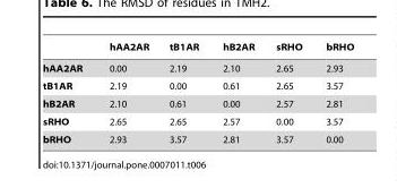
<table><thead><tr><td></td><td>hAA2AR</td><td>tB1AR</td><td>hB2AR</td><td>sRHO</td><td>bRHO</td></tr></thead><tbody><tr><td>hAA2AR</td><td>0.00</td><td>2.19</td><td>2.10</td><td>2.65</td><td>2.93</td></tr><tr><td>tB1AR</td><td>2.19</td><td>0.00</td><td>0.61</td><td>2.65</td><td>3.57</td></tr><tr><td>hB2AR</td><td>2.10</td><td>0.61</td><td>0.00</td><td>2.57</td><td>2.81</td></tr><tr><td>sRHO</td><td>2.65</td><td>2.65</td><td>2.57</td><td>0.00</td><td>3.57</td></tr><tr><td>bRHO</td><td>2.93</td><td>3.57</td><td>2.81</td><td>3.57</td><td>0.00</td></tr></tbody></table>